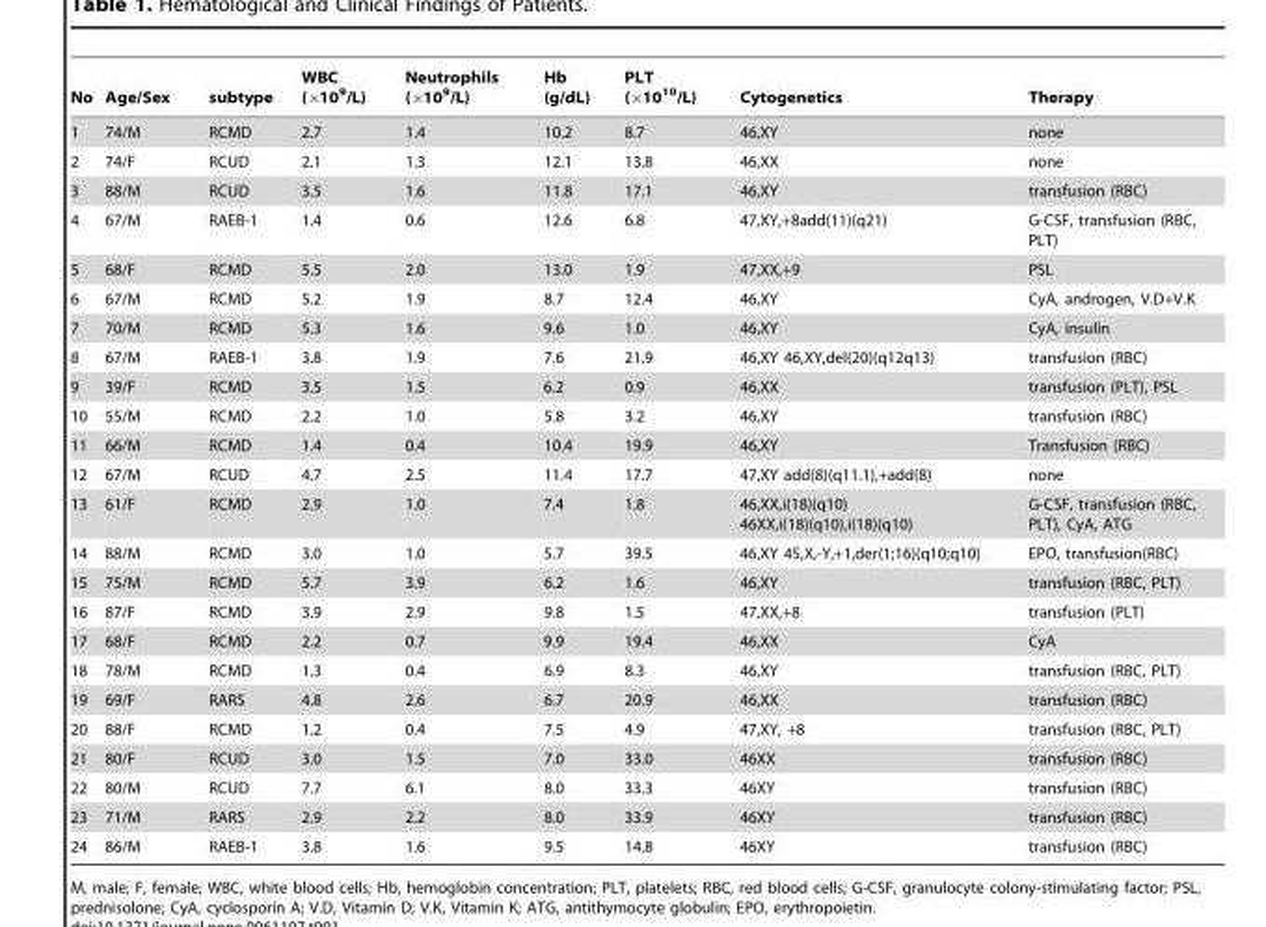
<table><thead><tr><td>No</td><td>Age/Sex</td><td>subtype</td><td>WBC (×10<sup>9</sup>/L)</td><td>Neutrophils (×10<sup>9</sup>/L)</td><td>Hb (g/dL)</td><td>PLT (×10<sup>10</sup>/L)</td><td>Cytogenetics</td><td>Therapy</td></tr></thead><tbody><tr><td>1</td><td>74/M</td><td>RCMD</td><td>2.7</td><td>1.4</td><td>10.2</td><td>8.7</td><td>46,XY</td><td>none</td></tr><tr><td>2</td><td>74/F</td><td>RCUD</td><td>2.1</td><td>1.3</td><td>12.1</td><td>13.8</td><td>46,XX</td><td>none</td></tr><tr><td>3</td><td>88/M</td><td>RCUD</td><td>3.5</td><td>1.6</td><td>11.8</td><td>17.1</td><td>46,XY</td><td>transfusion (RBC)</td></tr><tr><td>4</td><td>67/M</td><td>RAEB-1</td><td>1.4</td><td>0.6</td><td>12.6</td><td>6.8</td><td>47,XY,+8add(11)(q21)</td><td>G-CSF, transfusion (RBC, PLT)</td></tr><tr><td>5</td><td>68/F</td><td>RCMD</td><td>5.5</td><td>2.0</td><td>13.0</td><td>1.9</td><td>47,XX,+9</td><td>PSL</td></tr><tr><td>6</td><td>67/M</td><td>RCMD</td><td>5.2</td><td>1.9</td><td>8.7</td><td>12.4</td><td>46,XY</td><td>CyA, androgen, V.D+V.K</td></tr><tr><td>7</td><td>70/M</td><td>RCMD</td><td>5.3</td><td>1.6</td><td>9.6</td><td>1.0</td><td>46,XY</td><td>CyA, insulin</td></tr><tr><td>8</td><td>67/M</td><td>RAEB-1</td><td>3.8</td><td>1.9</td><td>7.6</td><td>21.9</td><td>46,XY 46,XY,del(20)(q12q13)</td><td>transfusion (RBC)</td></tr><tr><td>9</td><td>39/F</td><td>RCMD</td><td>3.5</td><td>1.5</td><td>6.2</td><td>0.9</td><td>46,XX</td><td>transfusion (PLT), PSL</td></tr><tr><td>10</td><td>55/M</td><td>RCMD</td><td>2.2</td><td>1.0</td><td>5.8</td><td>3.2</td><td>46,XY</td><td>transfusion (RBC)</td></tr><tr><td>11</td><td>66/M</td><td>RCMD</td><td>1.4</td><td>0.4</td><td>10.4</td><td>19.9</td><td>46,XY</td><td>Transfusion (RBC)</td></tr><tr><td>12</td><td>67/M</td><td>RCUD</td><td>4.7</td><td>2.5</td><td>11.4</td><td>17.7</td><td>47,XY add(8)(q11.1),+add(8)</td><td>none</td></tr><tr><td>13</td><td>61/F</td><td>RCMD</td><td>2.9</td><td>1.0</td><td>7.4</td><td>1.8</td><td>46,XX,i(18)(q10) 46XX,i(18)(q10),i(18)(q10)</td><td>G-CSF, transfusion (RBC, PLT), CyA, ATG</td></tr><tr><td>14</td><td>88/M</td><td>RCMD</td><td>3.0</td><td>1.0</td><td>5.7</td><td>39.5</td><td>46,XY 45,X,-Y,+1,der(1;16)(q10;q10)</td><td>EPO, transfusion(RBC)</td></tr><tr><td>15</td><td>75/M</td><td>RCMD</td><td>5.7</td><td>3.9</td><td>6.2</td><td>1.6</td><td>46,XY</td><td>transfusion (RBC, PLT)</td></tr><tr><td>16</td><td>87/F</td><td>RCMD</td><td>3.9</td><td>2.9</td><td>9.8</td><td>1.5</td><td>47,XX,+8</td><td>transfusion (PLT)</td></tr><tr><td>17</td><td>68/F</td><td>RCMD</td><td>2.2</td><td>0.7</td><td>9.9</td><td>19.4</td><td>46,XX</td><td>CyA</td></tr><tr><td>18</td><td>78/M</td><td>RCMD</td><td>1.3</td><td>0.4</td><td>6.9</td><td>8.3</td><td>46,XY</td><td>transfusion (RBC, PLT)</td></tr><tr><td>19</td><td>69/F</td><td>RARS</td><td>4.8</td><td>2.6</td><td>6.7</td><td>20.9</td><td>46,XX</td><td>transfusion (RBC)</td></tr><tr><td>20</td><td>88/F</td><td>RCMD</td><td>1.2</td><td>0.4</td><td>7.5</td><td>4.9</td><td>47,XY, +8</td><td>transfusion (RBC, PLT)</td></tr><tr><td>21</td><td>80/F</td><td>RCUD</td><td>3.0</td><td>1.5</td><td>7.0</td><td>33.0</td><td>46XX</td><td>transfusion (RBC)</td></tr><tr><td>22</td><td>80/M</td><td>RCUD</td><td>7.7</td><td>6.1</td><td>8.0</td><td>33.3</td><td>46XY</td><td>transfusion (RBC)</td></tr><tr><td>23</td><td>71/M</td><td>RARS</td><td>2.9</td><td>2.2</td><td>8.0</td><td>33.9</td><td>46XY</td><td>transfusion (RBC)</td></tr><tr><td>24</td><td>86/M</td><td>RAEB-1</td><td>3.8</td><td>1.6</td><td>9.5</td><td>14.8</td><td>46XY</td><td>transfusion (RBC)</td></tr></tbody></table>